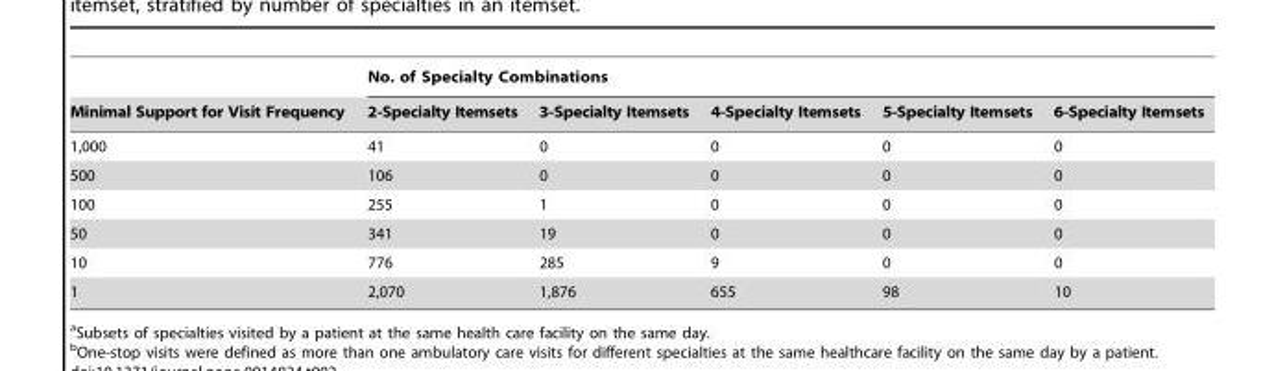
<table><thead><tr><td rowspan="2">Minimal Support for Visit Frequency</td><td colspan="5">No. of Specialty Combinations</td></tr><tr><td>2-Specialty Itemsets</td><td>3-Specialty Itemsets</td><td>4-Specialty Itemsets</td><td>5-Specialty Itemsets</td><td>6-Specialty Itemsets</td></tr></thead><tbody><tr><td>1,000</td><td>41</td><td>0</td><td>0</td><td>0</td><td>0</td></tr><tr><td>500</td><td>106</td><td>0</td><td>0</td><td>0</td><td>0</td></tr><tr><td>100</td><td>255</td><td>1</td><td>0</td><td>0</td><td>0</td></tr><tr><td>50</td><td>341</td><td>19</td><td>0</td><td>0</td><td>0</td></tr><tr><td>10</td><td>776</td><td>285</td><td>9</td><td>0</td><td>0</td></tr><tr><td>1</td><td>2,070</td><td>1,876</td><td>655</td><td>98</td><td>10</td></tr></tbody></table>